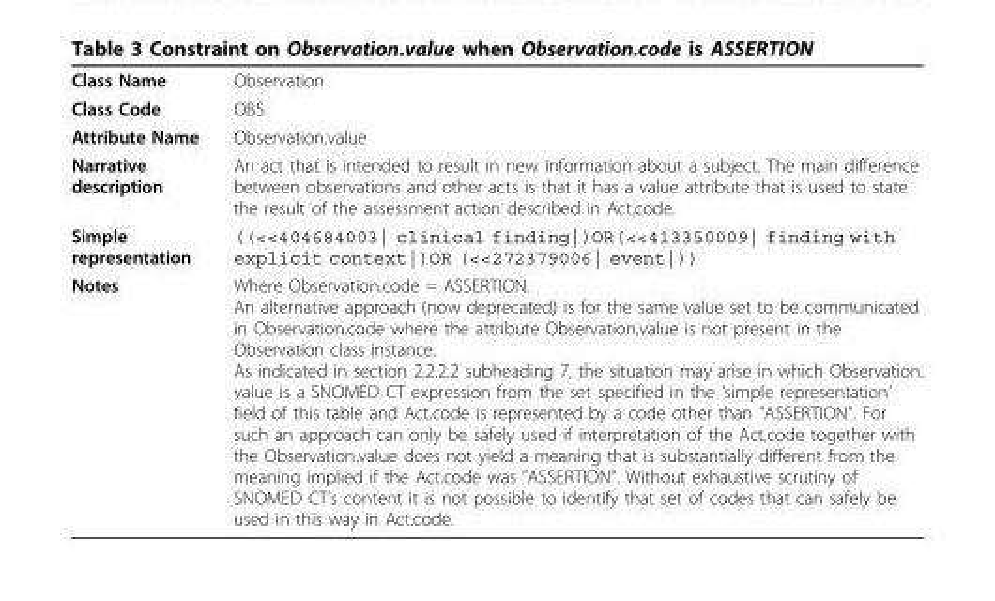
<table><tbody><tr><td>Class Name</td><td>Observation</td></tr><tr><td>Class Code</td><td>OBS</td></tr><tr><td>Attribute Name</td><td>Observation.value</td></tr><tr><td>Narrative description</td><td>An act that is intended to result in new information about a subject. The main difference between observations and other acts is that it has a value attribute that is used to state the result of the assessment action described in Act.code.</td></tr><tr><td>Simple representation</td><td>((&lt;&lt;404684003| clinical finding|)OR(&lt;&lt;413350009| finding with explicit context|)OR (&lt;&lt;272379006| event|))</td></tr><tr><td>Notes</td><td>Where Observation.code = ASSERTION. An alternative approach (now deprecated) is for the same value set to be communicated in Observation.code where the attribute Observation.value is not present in the Observation class instance. As indicated in section 2.2.2.2 subheading 7, the situation may arise in which Observation. value is a SNOMED CT expression from the set specified in the ‘simple representation’ field of this table and Act.code is represented by a code other than ”ASSERTION”. For such an approach can only be safely used if interpretation of the Act.code together with the Observation.value does not yield a meaning that is substantially different from the meaning implied if the Act.code was ”ASSERTION”. Without exhaustive scrutiny of SNOMED CT’s content it is not possible to identify that set of codes that can safely be used in this way in Act.code.</td></tr></tbody></table>